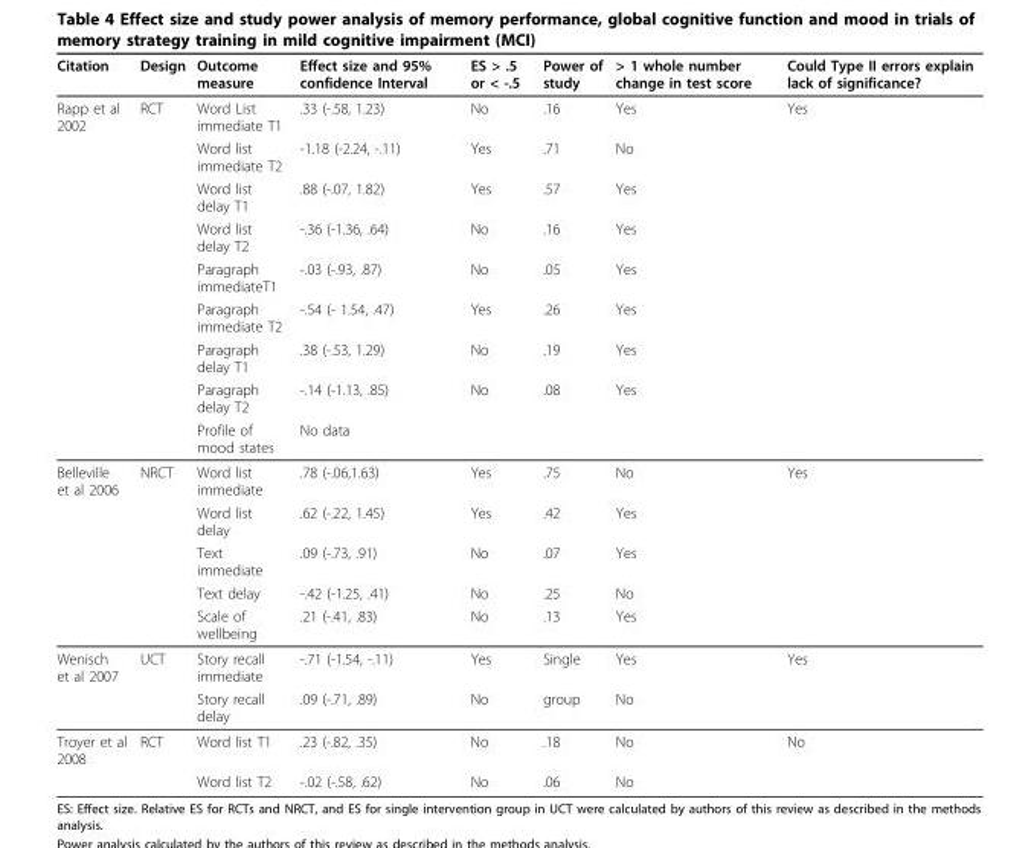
<table><thead><tr><td>Citation</td><td>Design</td><td>Outcome measure</td><td>Effect size and 95% confidence Interval</td><td>ES &gt; .5 or &lt; -.5</td><td>Power of study</td><td>&gt; 1 whole number change in test score</td><td>Could Type II errors explain lack of significance?</td></tr></thead><tbody><tr><td rowspan="9">Rapp et al 2002</td><td>RCT</td><td>Word List immediate T1</td><td>.33 (-.58, 1.23)</td><td>No</td><td>.16</td><td>Yes</td><td>Yes</td></tr><tr><td></td><td>Word list immediate T2</td><td>-1.18 (-2.24, -.11)</td><td>Yes</td><td>.71</td><td>No</td><td></td></tr><tr><td></td><td>Word list delay T1</td><td>.88 (-.07, 1.82)</td><td>Yes</td><td>.57</td><td>Yes</td><td></td></tr><tr><td></td><td>Word list delay T2</td><td>-.36 (-1.36, .64)</td><td>No</td><td>.16</td><td>Yes</td><td></td></tr><tr><td></td><td>Paragraph immediateT1</td><td>-.03 (-.93, .87)</td><td>No</td><td>.05</td><td>Yes</td><td></td></tr><tr><td></td><td>Paragraph immediate T2</td><td>-.54 (- 1.54, .47)</td><td>Yes</td><td>.26</td><td>Yes</td><td></td></tr><tr><td></td><td>Paragraph delay T1</td><td>.38 (-.53, 1.29)</td><td>No</td><td>.19</td><td>Yes</td><td></td></tr><tr><td></td><td>Paragraph delay T2</td><td>-.14 (-1.13, .85)</td><td>No</td><td>.08</td><td>Yes</td><td></td></tr><tr><td></td><td>Profile of mood states</td><td>No data</td><td></td><td></td><td></td><td></td></tr><tr><td rowspan="5">Belleville et al 2006</td><td>NRCT</td><td>Word list immediate</td><td>.78 (-.06,1.63)</td><td>Yes</td><td>.75</td><td>No</td><td>Yes</td></tr><tr><td></td><td>Word list delay</td><td>.62 (-.22, 1.45)</td><td>Yes</td><td>.42</td><td>Yes</td><td></td></tr><tr><td></td><td>Text immediate</td><td>.09 (-.73, .91)</td><td>No</td><td>.07</td><td>Yes</td><td></td></tr><tr><td></td><td>Text delay</td><td>-.42 (-1.25, .41)</td><td>No</td><td>.25</td><td>No</td><td></td></tr><tr><td></td><td>Scale of wellbeing</td><td>.21 (-.41, .83)</td><td>No</td><td>.13</td><td>Yes</td><td></td></tr><tr><td rowspan="2">Wenisch et al 2007</td><td>UCT</td><td>Story recall immediate</td><td>-.71 (-1.54, -.11)</td><td>Yes</td><td>Single</td><td>Yes</td><td>Yes</td></tr><tr><td></td><td>Story recall delay</td><td>.09 (-.71, .89)</td><td>No</td><td>group</td><td>No</td><td></td></tr><tr><td rowspan="2">Troyer et al 2008</td><td>RCT</td><td>Word list T1</td><td>.23 (-.82, .35)</td><td>No</td><td>.18</td><td>No</td><td>No</td></tr><tr><td></td><td>Word list T2</td><td>-.02 (-.58, .62)</td><td>No</td><td>.06</td><td>No</td><td></td></tr></tbody></table>